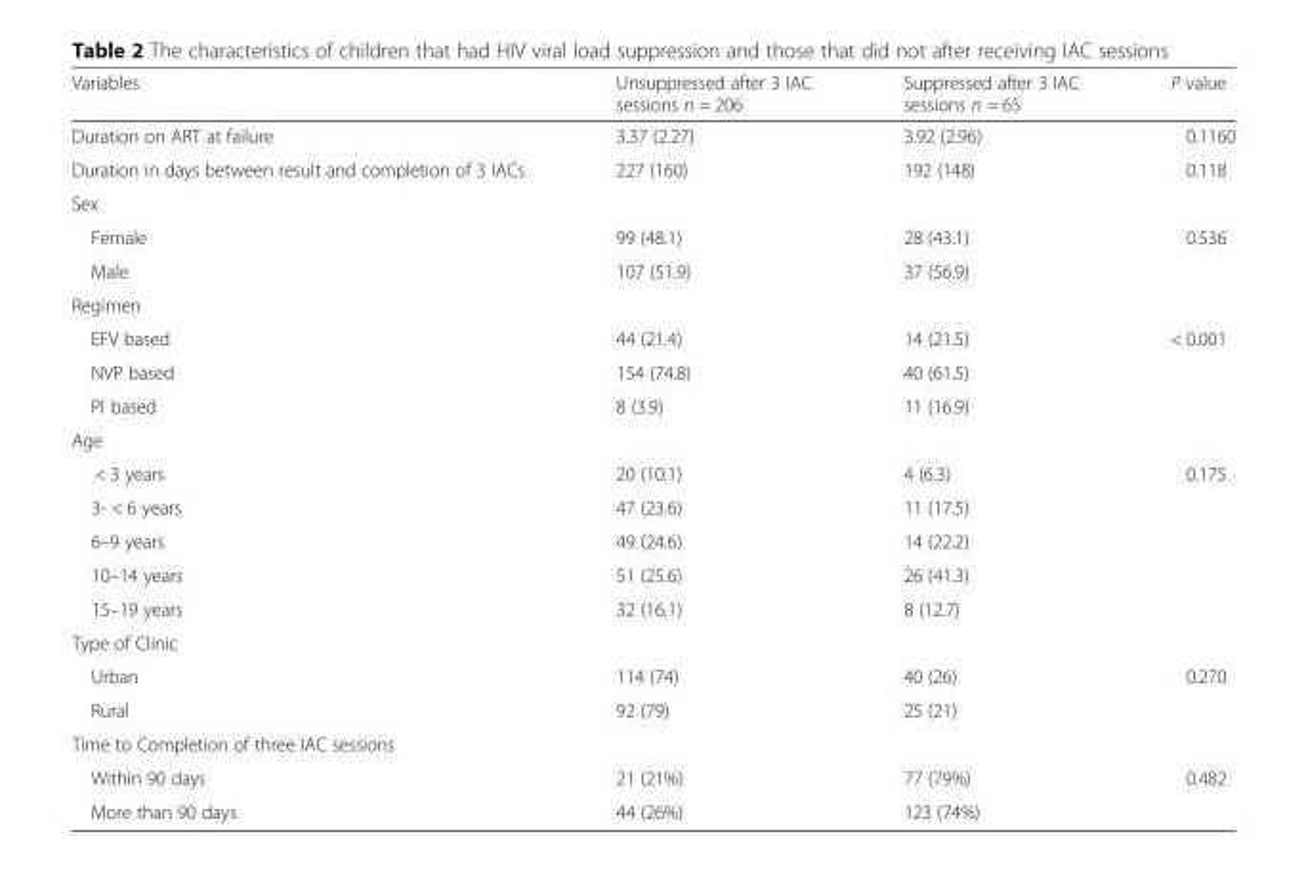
<table><thead><tr><td>Variables</td><td>Unsuppressed after 3 IAC sessions n = 206</td><td>Suppressed after 3 IAC sessions n = 65</td><td>P value</td></tr></thead><tbody><tr><td>Duration on ART at failure</td><td>3.37 (2.27)</td><td>3.92 (2.96)</td><td>0.1160</td></tr><tr><td>Duration in days between result and completion of 3 IACs</td><td>227 (160)</td><td>192 (148)</td><td>0.118</td></tr><tr><td colspan="4">Sex</td></tr><tr><td>Female</td><td>99 (48.1)</td><td>28 (43.1)</td><td>0.536</td></tr><tr><td>Male</td><td>107 (51.9)</td><td>37 (56.9)</td><td></td></tr><tr><td colspan="4">Regimen</td></tr><tr><td>EFV based</td><td>44 (21.4)</td><td>14 (21.5)</td><td>&lt; 0.001</td></tr><tr><td>NVP based</td><td>154 (74.8)</td><td>40 (61.5)</td><td></td></tr><tr><td>PI based</td><td>8 (3.9)</td><td>11 (16.9)</td><td></td></tr><tr><td colspan="4">Age</td></tr><tr><td>&lt; 3 years</td><td>20 (10.1)</td><td>4 (6.3)</td><td>0.175</td></tr><tr><td>3- &lt; 6 years</td><td>47 (23.6)</td><td>11 (17.5)</td><td></td></tr><tr><td>6–9 years</td><td>49 (24.6)</td><td>14 (22.2)</td><td></td></tr><tr><td>10–14 years</td><td>51 (25.6)</td><td>26 (41.3)</td><td></td></tr><tr><td>15–19 years</td><td>32 (16.1)</td><td>8 (12.7)</td><td></td></tr><tr><td colspan="4">Type of Clinic</td></tr><tr><td>Urban</td><td>114 (74)</td><td>40 (26)</td><td>0.270</td></tr><tr><td>Rural</td><td>92 (79)</td><td>25 (21)</td><td></td></tr><tr><td colspan="4">Time to Completion of three IAC sessions</td></tr><tr><td>Within 90 days</td><td>21 (21%)</td><td>77 (79%)</td><td>0.482</td></tr><tr><td>More than 90 days</td><td>44 (26%)</td><td>123 (74%)</td><td></td></tr></tbody></table>